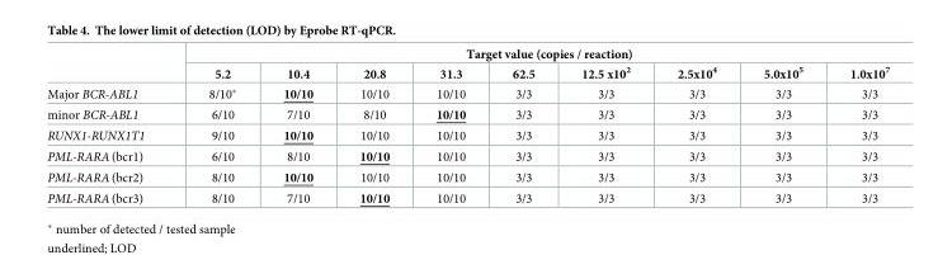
<table><thead><tr><td rowspan="2"></td><td colspan="9">Target value (copies / reaction)</td></tr><tr><td>5.2</td><td>10.4</td><td>20.8</td><td>31.3</td><td>62.5</td><td>12.5 x10<sup>2</sup></td><td>2.5x10<sup>4</sup></td><td>5.0x10<sup>5</sup></td><td>1.0x10<sup>7</sup></td></tr></thead><tbody><tr><td>Major BCR-ABL1</td><td>8/10*</td><td>10/10</td><td>10/10</td><td>10/10</td><td>3/3</td><td>3/3</td><td>3/3</td><td>3/3</td><td>3/3</td></tr><tr><td>minor BCR-ABL1</td><td>6/10</td><td>7/10</td><td>8/10</td><td>10/10</td><td>3/3</td><td>3/3</td><td>3/3</td><td>3/3</td><td>3/3</td></tr><tr><td>RUNX1-RUNX1T1</td><td>9/10</td><td>10/10</td><td>10/10</td><td>10/10</td><td>3/3</td><td>3/3</td><td>3/3</td><td>3/3</td><td>3/3</td></tr><tr><td>PML-RARA (bcr1)</td><td>6/10</td><td>8/10</td><td>10/10</td><td>10/10</td><td>3/3</td><td>3/3</td><td>3/3</td><td>3/3</td><td>3/3</td></tr><tr><td>PML-RARA (bcr2)</td><td>8/10</td><td>10/10</td><td>10/10</td><td>10/10</td><td>3/3</td><td>3/3</td><td>3/3</td><td>3/3</td><td>3/3</td></tr><tr><td>PML-RARA (bcr3)</td><td>8/10</td><td>7/10</td><td>10/10</td><td>10/10</td><td>3/3</td><td>3/3</td><td>3/3</td><td>3/3</td><td>3/3</td></tr></tbody></table>